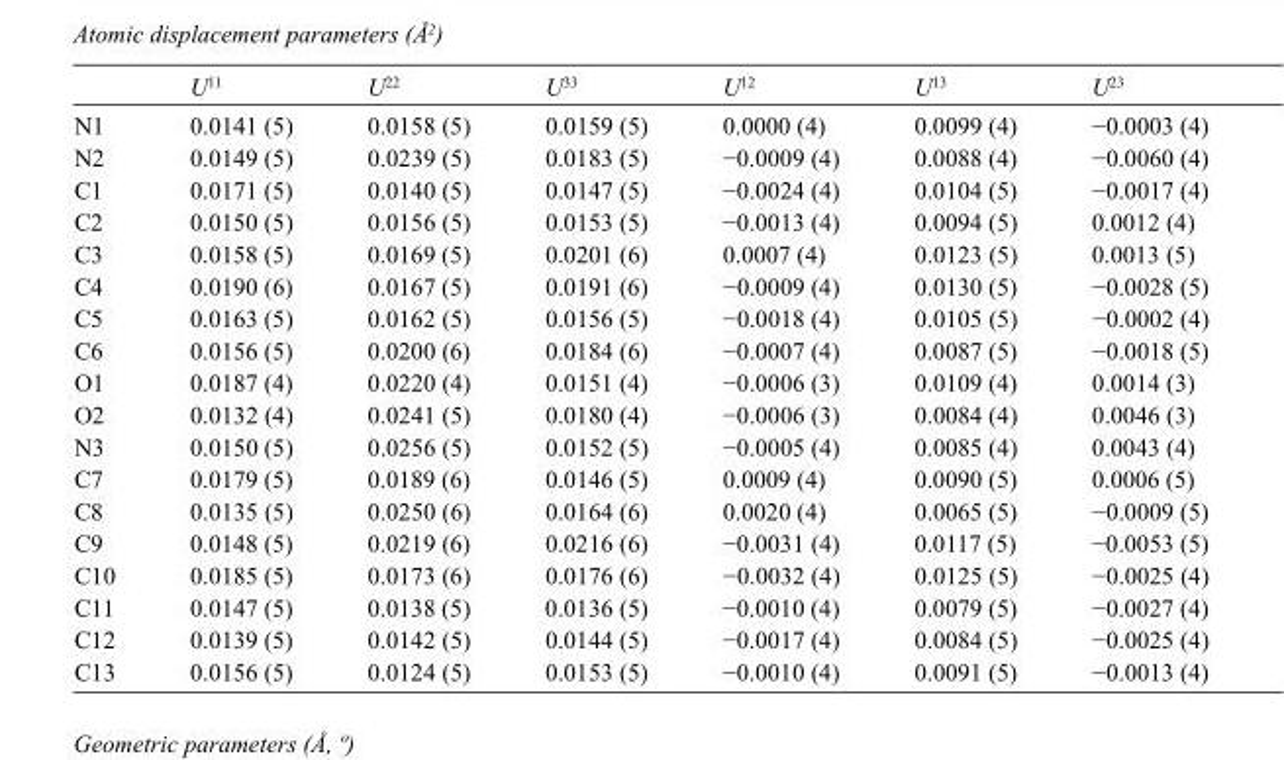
<table><thead><tr><td></td><td>U<sup>11</sup></td><td>U<sup>22</sup></td><td>U<sup>33</sup></td><td>U<sup>12</sup></td><td>U<sup>13</sup></td><td>U<sup>23</sup></td></tr></thead><tbody><tr><td>N1</td><td>0.0141 (5)</td><td>0.0158 (5)</td><td>0.0159 (5)</td><td>0.0000 (4)</td><td>0.0099 (4)</td><td>−0.0003 (4)</td></tr><tr><td>N2</td><td>0.0149 (5)</td><td>0.0239 (5)</td><td>0.0183 (5)</td><td>−0.0009 (4)</td><td>0.0088 (4)</td><td>−0.0060 (4)</td></tr><tr><td>C1</td><td>0.0171 (5)</td><td>0.0140 (5)</td><td>0.0147 (5)</td><td>−0.0024 (4)</td><td>0.0104 (5)</td><td>−0.0017 (4)</td></tr><tr><td>C2</td><td>0.0150 (5)</td><td>0.0156 (5)</td><td>0.0153 (5)</td><td>−0.0013 (4)</td><td>0.0094 (5)</td><td>0.0012 (4)</td></tr><tr><td>C3</td><td>0.0158 (5)</td><td>0.0169 (5)</td><td>0.0201 (6)</td><td>0.0007 (4)</td><td>0.0123 (5)</td><td>0.0013 (5)</td></tr><tr><td>C4</td><td>0.0190 (6)</td><td>0.0167 (5)</td><td>0.0191 (6)</td><td>−0.0009 (4)</td><td>0.0130 (5)</td><td>−0.0028 (5)</td></tr><tr><td>C5</td><td>0.0163 (5)</td><td>0.0162 (5)</td><td>0.0156 (5)</td><td>−0.0018 (4)</td><td>0.0105 (5)</td><td>−0.0002 (4)</td></tr><tr><td>C6</td><td>0.0156 (5)</td><td>0.0200 (6)</td><td>0.0184 (6)</td><td>−0.0007 (4)</td><td>0.0087 (5)</td><td>−0.0018 (5)</td></tr><tr><td>O1</td><td>0.0187 (4)</td><td>0.0220 (4)</td><td>0.0151 (4)</td><td>−0.0006 (3)</td><td>0.0109 (4)</td><td>0.0014 (3)</td></tr><tr><td>O2</td><td>0.0132 (4)</td><td>0.0241 (5)</td><td>0.0180 (4)</td><td>−0.0006 (3)</td><td>0.0084 (4)</td><td>0.0046 (3)</td></tr><tr><td>N3</td><td>0.0150 (5)</td><td>0.0256 (5)</td><td>0.0152 (5)</td><td>−0.0005 (4)</td><td>0.0085 (4)</td><td>0.0043 (4)</td></tr><tr><td>C7</td><td>0.0179 (5)</td><td>0.0189 (6)</td><td>0.0146 (5)</td><td>0.0009 (4)</td><td>0.0090 (5)</td><td>0.0006 (5)</td></tr><tr><td>C8</td><td>0.0135 (5)</td><td>0.0250 (6)</td><td>0.0164 (6)</td><td>0.0020 (4)</td><td>0.0065 (5)</td><td>−0.0009 (5)</td></tr><tr><td>C9</td><td>0.0148 (5)</td><td>0.0219 (6)</td><td>0.0216 (6)</td><td>−0.0031 (4)</td><td>0.0117 (5)</td><td>−0.0053 (5)</td></tr><tr><td>C10</td><td>0.0185 (5)</td><td>0.0173 (6)</td><td>0.0176 (6)</td><td>−0.0032 (4)</td><td>0.0125 (5)</td><td>−0.0025 (4)</td></tr><tr><td>C11</td><td>0.0147 (5)</td><td>0.0138 (5)</td><td>0.0136 (5)</td><td>−0.0010 (4)</td><td>0.0079 (5)</td><td>−0.0027 (4)</td></tr><tr><td>C12</td><td>0.0139 (5)</td><td>0.0142 (5)</td><td>0.0144 (5)</td><td>−0.0017 (4)</td><td>0.0084 (5)</td><td>−0.0025 (4)</td></tr><tr><td>C13</td><td>0.0156 (5)</td><td>0.0124 (5)</td><td>0.0153 (5)</td><td>−0.0010 (4)</td><td>0.0091 (5)</td><td>−0.0013 (4)</td></tr></tbody></table>